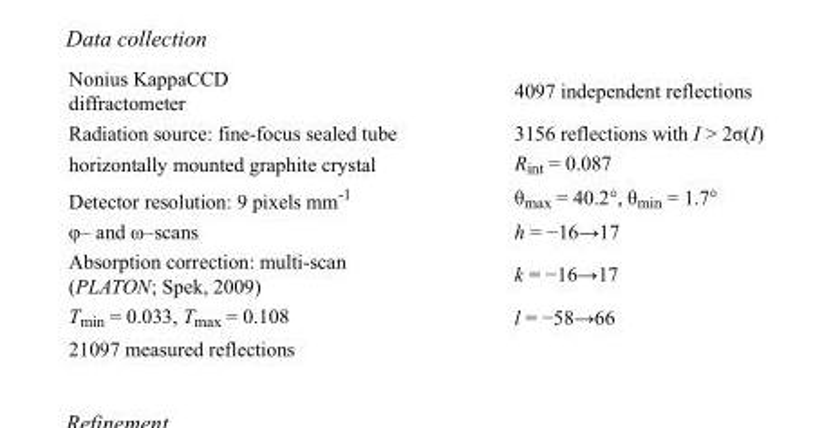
<table><tbody><tr><td>Nonius KappaCCD diffractometer</td><td>4097 independent reflections</td></tr><tr><td>Radiation source: fine-focus sealed tube</td><td>3156 reflections with I &gt; 2σ(I)</td></tr><tr><td>horizontally mounted graphite crystal</td><td>R<sub>int</sub> = 0.087</td></tr><tr><td>Detector resolution: 9 pixels mm<sup>-1</sup></td><td>θ<sub>max</sub> = 40.2°, θ<sub>min</sub> = 1.7°</td></tr><tr><td>φ– and ω–scans</td><td>h = −16→17</td></tr><tr><td>Absorption correction: multi-scan (PLATON; Spek, 2009)</td><td>k = −16→17</td></tr><tr><td>T<sub>min</sub> = 0.033, T<sub>max</sub> = 0.108</td><td>l = −58→66</td></tr><tr><td>21097 measured reflections</td><td></td></tr></tbody></table>